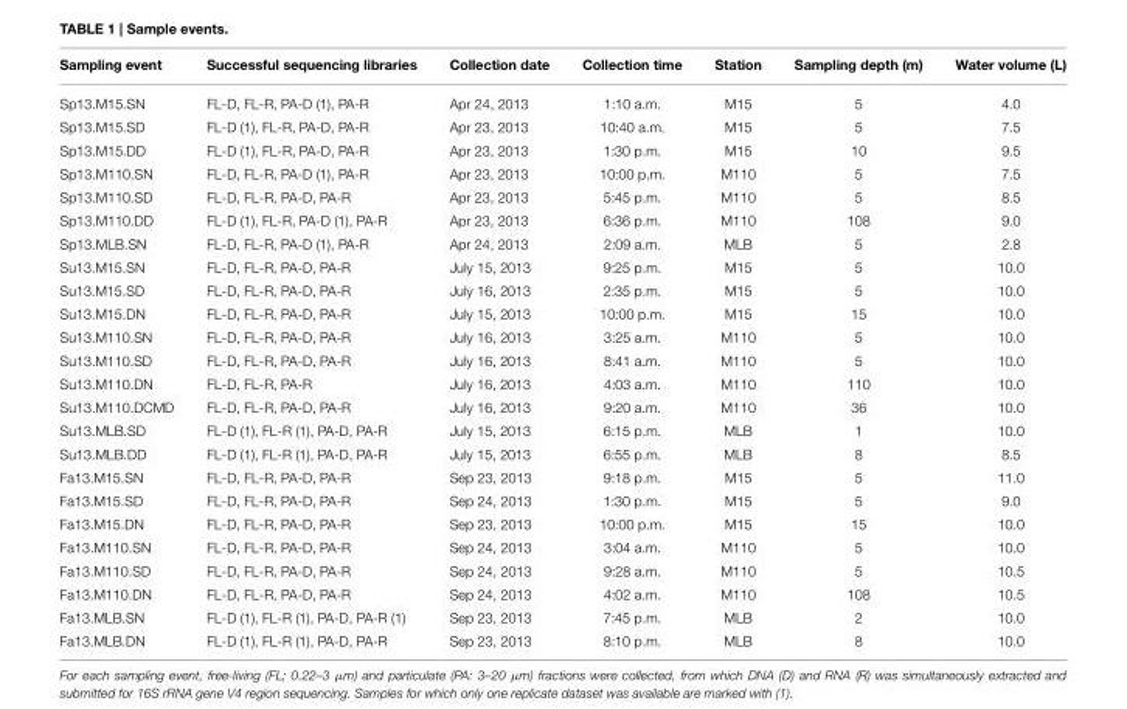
<table><thead><tr><td>Sampling event</td><td>Successful sequencing libraries</td><td>Collection date</td><td>Collection time</td><td>Station</td><td>Sampling depth (m)</td><td>Water volume (L)</td></tr></thead><tbody><tr><td>Sp13.M15.SN</td><td>FL-D, FL-R, PA-D (1), PA-R</td><td>Apr 24, 2013</td><td>1:10 a.m.</td><td>M15</td><td>5</td><td>4.0</td></tr><tr><td>Sp13.M15.SD</td><td>FL-D (1), FL-R, PA-D, PA-R</td><td>Apr 23, 2013</td><td>10:40 a.m.</td><td>M15</td><td>5</td><td>7.5</td></tr><tr><td>Sp13.M15.DD</td><td>FL-D (1), FL-R, PA-D, PA-R</td><td>Apr 23, 2013</td><td>1:30 p.m.</td><td>M15</td><td>10</td><td>9.5</td></tr><tr><td>Sp13.M110.SN</td><td>FL-D, FL-R, PA-D (1), PA-R</td><td>Apr 23, 2013</td><td>10:00 p.m.</td><td>M110</td><td>5</td><td>7.5</td></tr><tr><td>Sp13.M110.SD</td><td>FL-D, FL-R, PA-D, PA-R</td><td>Apr 23, 2013</td><td>5:45 p.m.</td><td>M110</td><td>5</td><td>8.5</td></tr><tr><td>Sp13.M110.DD</td><td>FL-D (1), FL-R, PA-D (1), PA-R</td><td>Apr 23, 2013</td><td>6:36 p.m.</td><td>M110</td><td>108</td><td>9.0</td></tr><tr><td>Sp13.MLB.SN</td><td>FL-D, FL-R, PA-D (1), PA-R</td><td>Apr 24, 2013</td><td>2:09 a.m.</td><td>MLB</td><td>5</td><td>2.8</td></tr><tr><td>Su13.M15.SN</td><td>FL-D, FL-R, PA-D, PA-R</td><td>July 15, 2013</td><td>9:25 p.m.</td><td>M15</td><td>5</td><td>10.0</td></tr><tr><td>Su13.M15.SD</td><td>FL-D, FL-R, PA-D, PA-R</td><td>July 16, 2013</td><td>2:35 p.m.</td><td>M15</td><td>5</td><td>10.0</td></tr><tr><td>Su13.M15.DN</td><td>FL-D, FL-R, PA-D, PA-R</td><td>July 15, 2013</td><td>10:00 p.m.</td><td>M15</td><td>15</td><td>10.0</td></tr><tr><td>Su13.M110.SN</td><td>FL-D, FL-R, PA-D, PA-R</td><td>July 16, 2013</td><td>3:25 a.m.</td><td>M110</td><td>5</td><td>10.0</td></tr><tr><td>Su13.M110.SD</td><td>FL-D, FL-R, PA-D, PA-R</td><td>July 16, 2013</td><td>8:41 a.m.</td><td>M110</td><td>5</td><td>10.0</td></tr><tr><td>Su13.M110.DN</td><td>FL-D, FL-R, PA-R</td><td>July 16, 2013</td><td>4:03 a.m.</td><td>M110</td><td>110</td><td>10.0</td></tr><tr><td>Su13.M110.DCMD</td><td>FL-D, FL-R, PA-D, PA-R</td><td>July 16, 2013</td><td>9:20 a.m.</td><td>M110</td><td>36</td><td>10.0</td></tr><tr><td>Su13.MLB.SD</td><td>FL-D (1), FL-R (1), PA-D, PA-R</td><td>July 15, 2013</td><td>6:15 p.m.</td><td>MLB</td><td>1</td><td>10.0</td></tr><tr><td>Su13.MLB.DD</td><td>FL-D (1), FL-R (1), PA-D, PA-R</td><td>July 15, 2013</td><td>6:55 p.m.</td><td>MLB</td><td>8</td><td>8.5</td></tr><tr><td>Fa13.M15.SN</td><td>FL-D, FL-R, PA-D, PA-R</td><td>Sep 23, 2013</td><td>9:18 p.m.</td><td>M15</td><td>5</td><td>11.0</td></tr><tr><td>Fa13.M15.SD</td><td>FL-D, FL-R, PA-D, PA-R</td><td>Sep 24, 2013</td><td>1:30 p.m.</td><td>M15</td><td>5</td><td>9.0</td></tr><tr><td>Fa13.M15.DN</td><td>FL-D, FL-R, PA-D, PA-R</td><td>Sep 23, 2013</td><td>10:00 p.m.</td><td>M15</td><td>15</td><td>10.0</td></tr><tr><td>Fa13.M110.SN</td><td>FL-D, FL-R, PA-D, PA-R</td><td>Sep 24, 2013</td><td>3:04 a.m.</td><td>M110</td><td>5</td><td>10.0</td></tr><tr><td>Fa13.M110.SD</td><td>FL-D, FL-R, PA-D, PA-R</td><td>Sep 24, 2013</td><td>9:28 a.m.</td><td>M110</td><td>5</td><td>10.5</td></tr><tr><td>Fa13.M110.DN</td><td>FL-D, FL-R, PA-D, PA-R</td><td>Sep 24, 2013</td><td>4:02 a.m.</td><td>M110</td><td>108</td><td>10.5</td></tr><tr><td>Fa13.MLB.SN</td><td>FL-D (1), FL-R (1), PA-D, PA-R (1)</td><td>Sep 23, 2013</td><td>7:45 p.m.</td><td>MLB</td><td>2</td><td>10.0</td></tr><tr><td>Fa13.MLB.DN</td><td>FL-D (1), FL-R (1), PA-D, PA-R</td><td>Sep 23, 2013</td><td>8:10 p.m.</td><td>MLB</td><td>8</td><td>10.0</td></tr></tbody></table>